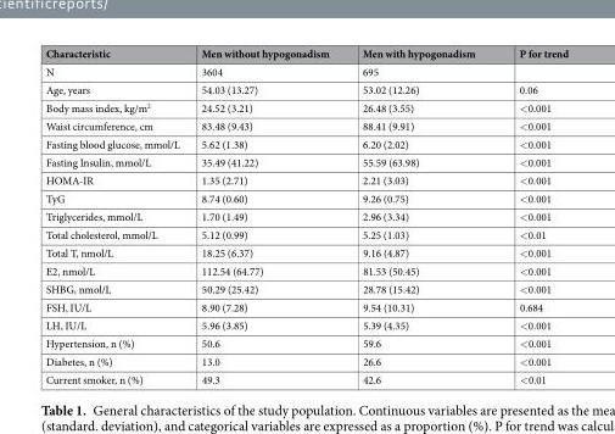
<table><thead><tr><td>Characteristic</td><td>Men without hypogonadism</td><td>Men with hypogonadism</td><td>P for trend</td></tr></thead><tbody><tr><td>N</td><td>3604</td><td>695</td><td></td></tr><tr><td>Age, years</td><td>54.03 (13.27)</td><td>53.02 (12.26)</td><td>0.06</td></tr><tr><td>Body mass index, kg/m<sup>2</sup></td><td>24.52 (3.21)</td><td>26.48 (3.55)</td><td>&lt;0.001</td></tr><tr><td>Waist circumference, cm</td><td>83.48 (9.43)</td><td>88.41 (9.91)</td><td>&lt;0.001</td></tr><tr><td>Fasting blood glucose, mmol/L</td><td>5.62 (1.38)</td><td>6.20 (2.02)</td><td>&lt;0.001</td></tr><tr><td>Fasting Insulin, mmol/L</td><td>35.49 (41.22)</td><td>55.59 (63.98)</td><td>&lt;0.001</td></tr><tr><td>HOMA-IR</td><td>1.35 (2.71)</td><td>2.21 (3.03)</td><td>&lt;0.001</td></tr><tr><td>TyG</td><td>8.74 (0.60)</td><td>9.26 (0.75)</td><td>&lt;0.001</td></tr><tr><td>Triglycerides, mmol/L</td><td>1.70 (1.49)</td><td>2.96 (3.34)</td><td>&lt;0.001</td></tr><tr><td>Total cholesterol, mmol/L</td><td>5.12 (0.99)</td><td>5.25 (1.03)</td><td>&lt;0.01</td></tr><tr><td>Total T, nmol/L</td><td>18.25 (6.37)</td><td>9.16 (4.87)</td><td>&lt;0.001</td></tr><tr><td>E2, nmol/L</td><td>112.54 (64.77)</td><td>81.53 (50.45)</td><td>&lt;0.001</td></tr><tr><td>SHBG, nmol/L</td><td>50.29 (25.42)</td><td>28.78 (15.42)</td><td>&lt;0.001</td></tr><tr><td>FSH, IU/L</td><td>8.90 (7.28)</td><td>9.54 (10.31)</td><td>0.684</td></tr><tr><td>LH, IU/L</td><td>5.96 (3.85)</td><td>5.39 (4.35)</td><td>&lt;0.001</td></tr><tr><td>Hypertension, n (%)</td><td>50.6</td><td>59.6</td><td>&lt;0.001</td></tr><tr><td>Diabetes, n (%)</td><td>13.0</td><td>26.6</td><td>&lt;0.001</td></tr><tr><td>Current smoker, n (%)</td><td>49.3</td><td>42.6</td><td>&lt;0.01</td></tr></tbody></table>